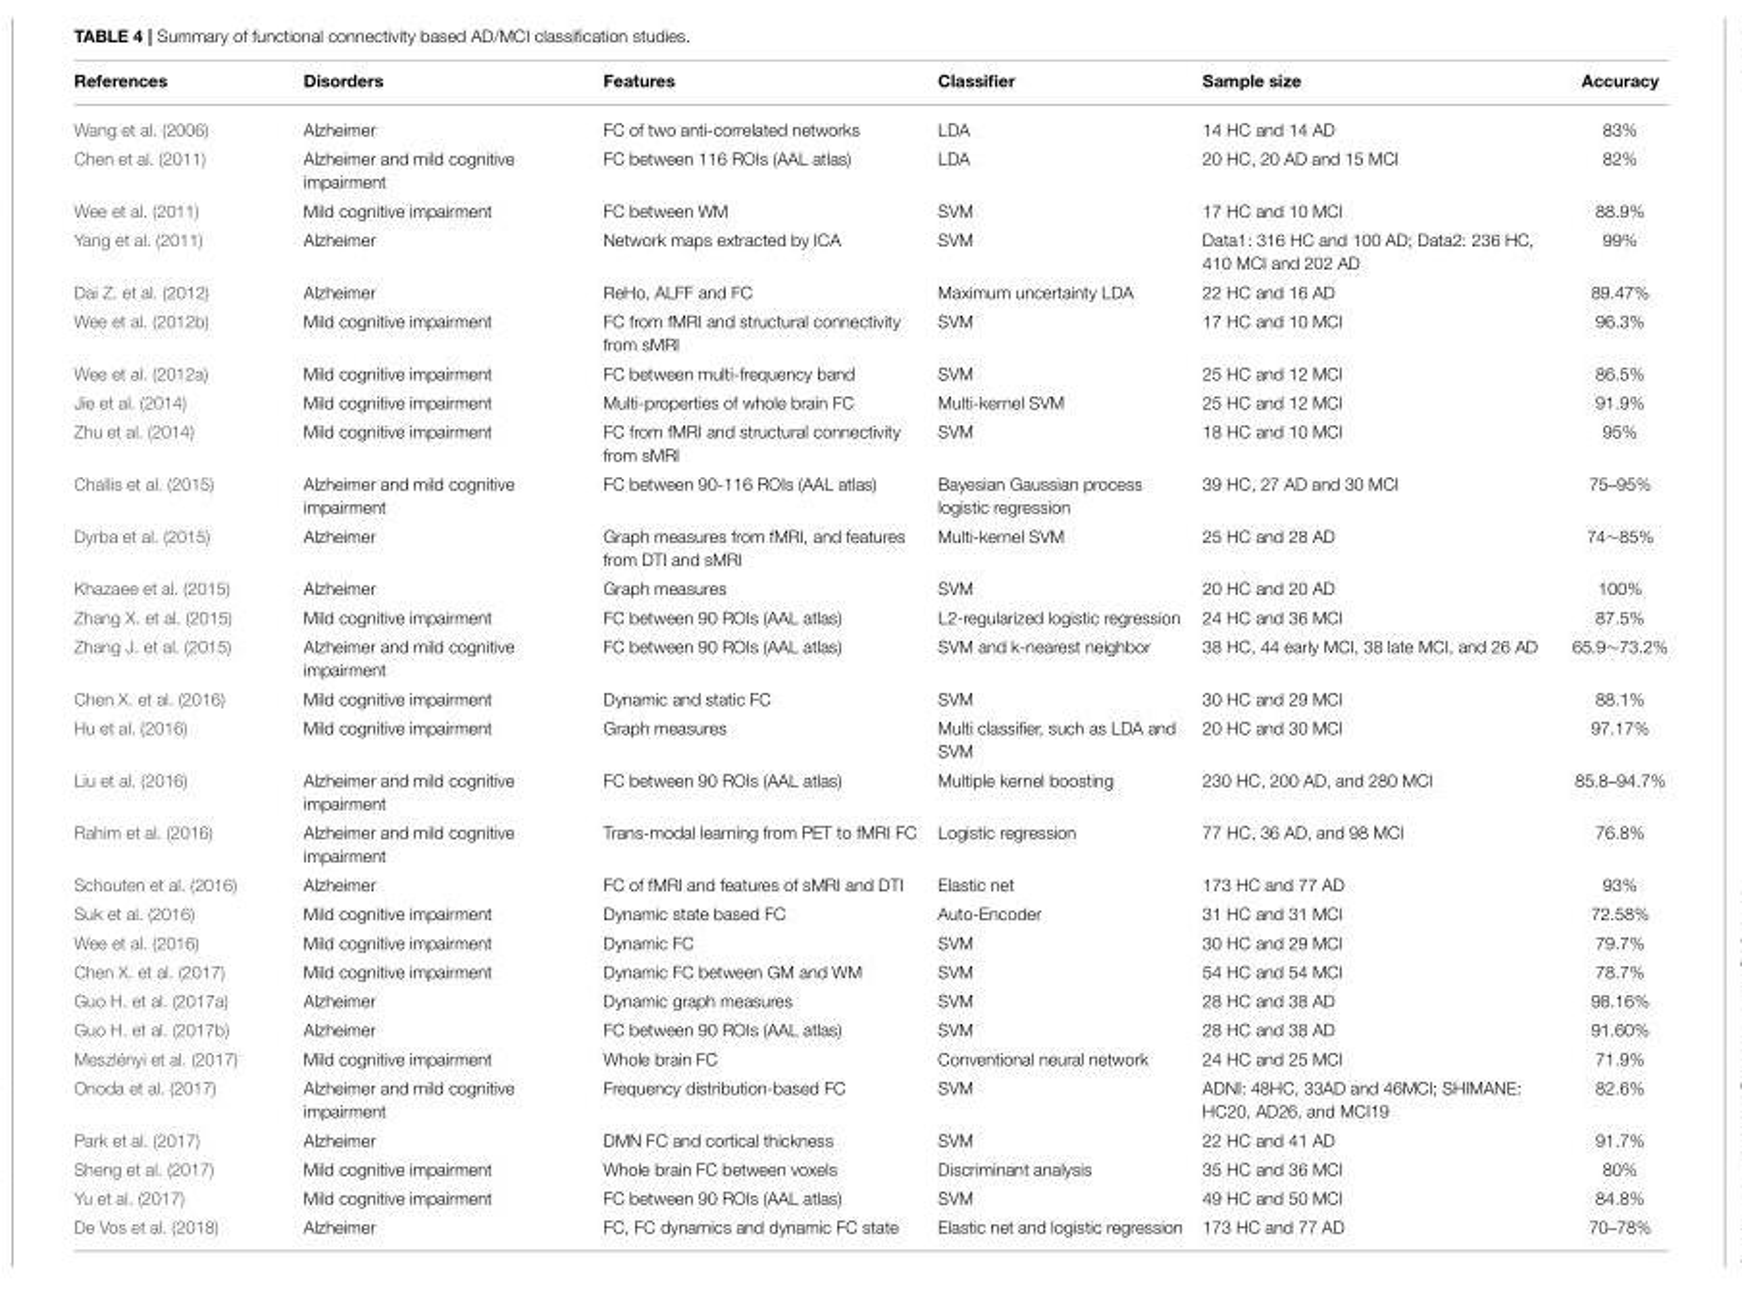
<table><thead><tr><td>References</td><td>Disorders</td><td>Features</td><td>Classifier</td><td>Sample size</td><td>Accuracy</td></tr></thead><tbody><tr><td>Wang et al. (2006)</td><td>Alzheimer</td><td>FC of two anti-correlated networks</td><td>LDA</td><td>14 HC and 14 AD</td><td>83%</td></tr><tr><td>Chen et al. (2011)</td><td>Alzheimer and mild cognitive impairment</td><td>FC between 116 ROIs (AAL atlas)</td><td>LDA</td><td>20 HC, 20 AD and 15 MCI</td><td>82%</td></tr><tr><td>Wee et al. (2011)</td><td>Mild cognitive impairment</td><td>FC between WM</td><td>SVM</td><td>17 HC and 10 MCI</td><td>88.9%</td></tr><tr><td>Yang et al. (2011)</td><td>Alzheimer</td><td>Network maps extracted by ICA</td><td>SVM</td><td>Data1: 316 HC and 100 AD; Data2: 236 HC, 410 MCI and 202 AD</td><td>99%</td></tr><tr><td>Dai Z. et al. (2012)</td><td>Alzheimer</td><td>ReHo, ALFF and FC</td><td>Maximum uncertainty LDA</td><td>22 HC and 16 AD</td><td>89.47%</td></tr><tr><td>Wee et al. (2012b)</td><td>Mild cognitive impairment</td><td>FC from fMRI and structural connectivity from sMRI</td><td>SVM</td><td>17 HC and 10 MCI</td><td>96.3%</td></tr><tr><td>Wee et al. (2012a)</td><td>Mild cognitive impairment</td><td>FC between multi-frequency band</td><td>SVM</td><td>25 HC and 12 MCI</td><td>86.5%</td></tr><tr><td>Jie et al. (2014)</td><td>Mild cognitive impairment</td><td>Multi-properties of whole brain FC</td><td>Multi-kernel SVM</td><td>25 HC and 12 MCI</td><td>91.9%</td></tr><tr><td>Zhu et al. (2014)</td><td>Mild cognitive impairment</td><td>FC from fMRI and structural connectivity from sMRI</td><td>SVM</td><td>18 HC and 10 MCI</td><td>95%</td></tr><tr><td>Challis et al. (2015)</td><td>Alzheimer and mild cognitive impairment</td><td>FC between 90-116 ROIs (AAL atlas)</td><td>Bayesian Gaussian process logistic regression</td><td>39 HC, 27 AD and 30 MCI</td><td>75–95%</td></tr><tr><td>Dyrba et al. (2015)</td><td>Alzheimer</td><td>Graph measures from fMRI, and features from DTI and sMRI</td><td>Multi-kernel SVM</td><td>25 HC and 28 AD</td><td>74∼85%</td></tr><tr><td>Khazaee et al. (2015)</td><td>Alzheimer</td><td>Graph measures</td><td>SVM</td><td>20 HC and 20 AD</td><td>100%</td></tr><tr><td>Zhang X. et al. (2015)</td><td>Mild cognitive impairment</td><td>FC between 90 ROIs (AAL atlas)</td><td>L2-regularized logistic regression</td><td>24 HC and 36 MCI</td><td>87.5%</td></tr><tr><td>Zhang J. et al. (2015)</td><td>Alzheimer and mild cognitive impairment</td><td>FC between 90 ROIs (AAL atlas)</td><td>SVM and k-nearest neighbor</td><td>38 HC, 44 early MCI, 38 late MCI, and 26 AD</td><td>65.9∼73.2%</td></tr><tr><td>Chen X. et al. (2016)</td><td>Mild cognitive impairment</td><td>Dynamic and static FC</td><td>SVM</td><td>30 HC and 29 MCI</td><td>88.1%</td></tr><tr><td>Hu et al. (2016)</td><td>Mild cognitive impairment</td><td>Graph measures</td><td>Multi classifier, such as LDA and SVM</td><td>20 HC and 30 MCI</td><td>97.17%</td></tr><tr><td>Liu et al. (2016)</td><td>Alzheimer and mild cognitive impairment</td><td>FC between 90 ROIs (AAL atlas)</td><td>Multiple kernel boosting</td><td>230 HC, 200 AD, and 280 MCI</td><td>85.8–94.7%</td></tr><tr><td>Rahim et al. (2016)</td><td>Alzheimer and mild cognitive impairment</td><td>Trans-modal learning from PET to fMRI FC</td><td>Logistic regression</td><td>77 HC, 36 AD, and 98 MCI</td><td>76.8%</td></tr><tr><td>Schouten et al. (2016)</td><td>Alzheimer</td><td>FC of fMRI and features of sMRI and DTI</td><td>Elastic net</td><td>173 HC and 77 AD</td><td>93%</td></tr><tr><td>Suk et al. (2016)</td><td>Mild cognitive impairment</td><td>Dynamic state based FC</td><td>Auto-Encoder</td><td>31 HC and 31 MCI</td><td>72.58%</td></tr><tr><td>Wee et al. (2016)</td><td>Mild cognitive impairment</td><td>Dynamic FC</td><td>SVM</td><td>30 HC and 29 MCI</td><td>79.7%</td></tr><tr><td>Chen X. et al. (2017)</td><td>Mild cognitive impairment</td><td>Dynamic FC between GM and WM</td><td>SVM</td><td>54 HC and 54 MCI</td><td>78.7%</td></tr><tr><td>Guo H. et al. (2017a)</td><td>Alzheimer</td><td>Dynamic graph measures</td><td>SVM</td><td>28 HC and 38 AD</td><td>98.16%</td></tr><tr><td>Guo H. et al. (2017b)</td><td>Alzheimer</td><td>FC between 90 ROIs (AAL atlas)</td><td>SVM</td><td>28 HC and 38 AD</td><td>91.60%</td></tr><tr><td>Meszlényi et al. (2017)</td><td>Mild cognitive impairment</td><td>Whole brain FC</td><td>Conventional neural network</td><td>24 HC and 25 MCI</td><td>71.9%</td></tr><tr><td>Onoda et al. (2017)</td><td>Alzheimer and mild cognitive impairment</td><td>Frequency distribution-based FC</td><td>SVM</td><td>ADNI: 48HC, 33AD and 46MCI; SHIMANE: HC20, AD26, and MCI19</td><td>82.6%</td></tr><tr><td>Park et al. (2017)</td><td>Alzheimer</td><td>DMN FC and cortical thickness</td><td>SVM</td><td>22 HC and 41 AD</td><td>91.7%</td></tr><tr><td>Sheng et al. (2017)</td><td>Mild cognitive impairment</td><td>Whole brain FC between voxels</td><td>Discriminant analysis</td><td>35 HC and 36 MCI</td><td>80%</td></tr><tr><td>Yu et al. (2017)</td><td>Mild cognitive impairment</td><td>FC between 90 ROIs (AAL atlas)</td><td>SVM</td><td>49 HC and 50 MCI</td><td>84.8%</td></tr><tr><td>De Vos et al. (2018)</td><td>Alzheimer</td><td>FC, FC dynamics and dynamic FC state</td><td>Elastic net and logistic regression</td><td>173 HC and 77 AD</td><td>70–78%</td></tr></tbody></table>